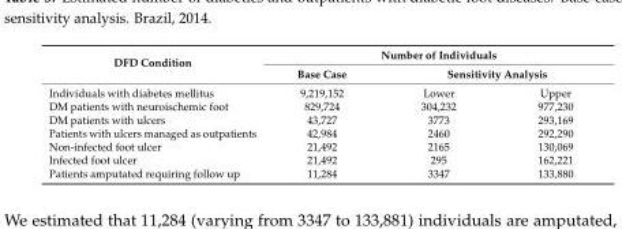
<table><thead><tr><td rowspan="3">DFD Condition Individuals with diabetes mellitus</td><td colspan="3">Number of Individuals</td></tr><tr><td rowspan="2">Base Case 9,219,152</td><td colspan="2">Sensitivity Analysis</td></tr><tr><td>Lower</td><td>Upper</td></tr></thead><tbody><tr><td>DM patients with neuroischemic foot</td><td>829,724</td><td>304,232</td><td>977,230</td></tr><tr><td>DM patients with ulcers</td><td>43,727</td><td>3773</td><td>293,169</td></tr><tr><td>Patients with ulcers managed as outpatients</td><td>42,984</td><td>2460</td><td>292,290</td></tr><tr><td>Non-infected foot ulcer</td><td>21,492</td><td>2165</td><td>130,069</td></tr><tr><td>Infected foot ulcer</td><td>21,492</td><td>295</td><td>162,221</td></tr><tr><td>Patients amputated requiring follow up</td><td>11,284</td><td>3347</td><td>133,880</td></tr></tbody></table>